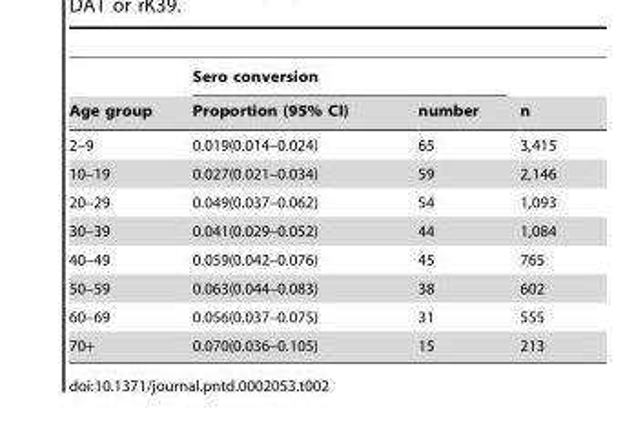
<table><thead><tr><td rowspan="2">Age group</td><td colspan="2">Sero conversion</td><td rowspan="2">n</td></tr><tr><td>Proportion (95% CI)</td><td>number</td></tr></thead><tbody><tr><td>2–9</td><td>0.019(0.014–0.024)</td><td>65</td><td>3,415</td></tr><tr><td>10–19</td><td>0.027(0.021–0.034)</td><td>59</td><td>2,146</td></tr><tr><td>20–29</td><td>0.049(0.037–0.062)</td><td>54</td><td>1,093</td></tr><tr><td>30–39</td><td>0.041(0.029–0.052)</td><td>44</td><td>1,084</td></tr><tr><td>40–49</td><td>0.059(0.042–0.076)</td><td>45</td><td>765</td></tr><tr><td>50–59</td><td>0.063(0.044–0.083)</td><td>38</td><td>602</td></tr><tr><td>60–69</td><td>0.056(0.037–0.075)</td><td>31</td><td>555</td></tr><tr><td>70+</td><td>0.070(0.036–0.105)</td><td>15</td><td>213</td></tr></tbody></table>